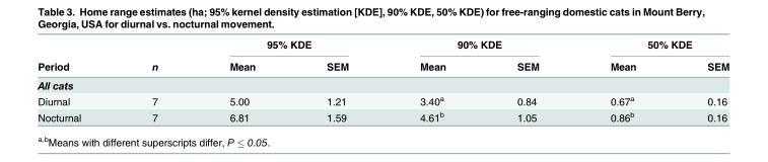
<table><thead><tr><td rowspan="2">Period</td><td rowspan="2">n</td><td colspan="2">95% KDE</td><td colspan="2">90% KDE</td><td colspan="2">50% KDE</td></tr><tr><td>Mean</td><td>SEM</td><td>Mean</td><td>SEM</td><td>Mean</td><td>SEM</td></tr></thead><tbody><tr><td colspan="8">All cats</td></tr><tr><td>Diurnal</td><td>7</td><td>5.00</td><td>1.21</td><td>3.40<sup>a</sup></td><td>0.84</td><td>0.67<sup>a</sup></td><td>0.16</td></tr><tr><td>Nocturnal</td><td>7</td><td>6.81</td><td>1.59</td><td>4.61<sup>b</sup></td><td>1.05</td><td>0.86<sup>b</sup></td><td>0.16</td></tr></tbody></table>